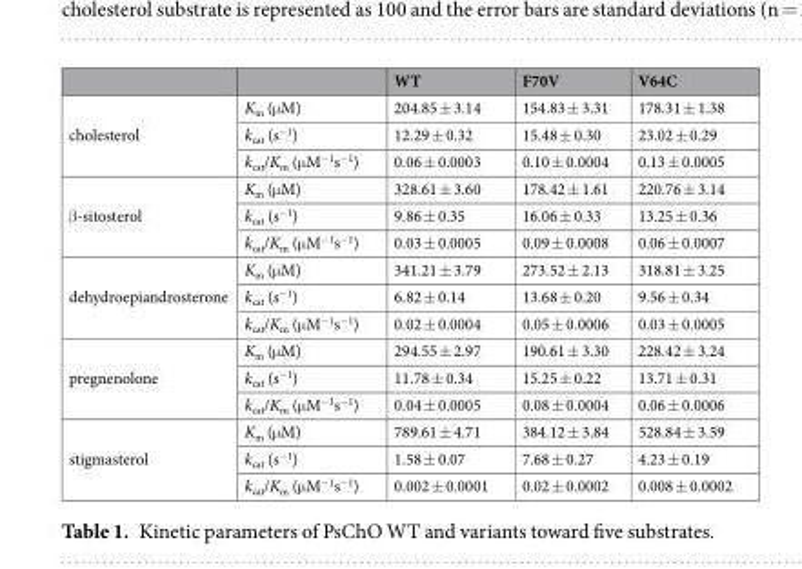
<table><thead><tr><td></td><td></td><td>WT</td><td>F70V</td><td>V64C</td></tr></thead><tbody><tr><td rowspan="3">cholesterol</td><td>K<sub>m</sub> (μM)</td><td>204.85 ± 3.14</td><td>154.83 ± 3.31</td><td>178.31 ± 1.38</td></tr><tr><td>k<sub>cat</sub> (s<sup>−1</sup>)</td><td>12.29 ± 0.32</td><td>15.48 ± 0.30</td><td>23.02 ± 0.29</td></tr><tr><td>k<sub>cat</sub>/K<sub>m</sub> (μM<sup>−1</sup>s<sup>−1</sup>)</td><td>0.06 ± 0.0003</td><td>0.10 ± 0.0004</td><td>0.13 ± 0.0005</td></tr><tr><td rowspan="3">β-sitosterol</td><td>K<sub>m</sub> (μM)</td><td>328.61 ± 3.60</td><td>178.42 ± 1.61</td><td>220.76 ± 3.14</td></tr><tr><td>k<sub>cat</sub> (s<sup>−1</sup>)</td><td>9.86 ± 0.35</td><td>16.06 ± 0.33</td><td>13.25 ± 0.36</td></tr><tr><td>k<sub>cat</sub>/K<sub>m</sub> (μM<sup>−1</sup>s<sup>−1</sup>)</td><td>0.03 ± 0.0005</td><td>0.09 ± 0.0008</td><td>0.06 ± 0.0007</td></tr><tr><td rowspan="3">dehydroepiandrosterone</td><td>K<sub>m</sub> (μM)</td><td>341.21 ± 3.79</td><td>273.52 ± 2.13</td><td>318.81 ± 3.25</td></tr><tr><td>k<sub>cat</sub> (s<sup>−1</sup>)</td><td>6.82 ± 0.14</td><td>13.68 ± 0.20</td><td>9.56 ± 0.34</td></tr><tr><td>k<sub>cat</sub>/K<sub>m</sub> (μM<sup>−1</sup>s<sup>−1</sup>)</td><td>0.02 ± 0.0004</td><td>0.05 ± 0.0006</td><td>0.03 ± 0.0005</td></tr><tr><td rowspan="3">pregnenolone</td><td>K<sub>m</sub> (μM)</td><td>294.55 ± 2.97</td><td>190.61 ± 3.30</td><td>228.42 ± 3.24</td></tr><tr><td>k<sub>cat</sub> (s<sup>−1</sup>)</td><td>11.78 ± 0.34</td><td>15.25 ± 0.22</td><td>13.71 ± 0.31</td></tr><tr><td>k<sub>cat</sub>/K<sub>m</sub> (μM<sup>−1</sup>s<sup>−1</sup>)</td><td>0.04 ± 0.0005</td><td>0.08 ± 0.0004</td><td>0.06 ± 0.0006</td></tr><tr><td rowspan="3">stigmasterol</td><td>K<sub>m</sub> (μM)</td><td>789.61 ± 4.71</td><td>384.12 ± 3.84</td><td>528.84 ± 3.59</td></tr><tr><td>k<sub>cat</sub> (s<sup>−1</sup>)</td><td>1.58 ± 0.07</td><td>7.68 ± 0.27</td><td>4.23 ± 0.19</td></tr><tr><td>k<sub>cat</sub>/K<sub>m</sub> (μM<sup>−1</sup>s<sup>−1</sup>)</td><td>0.002 ± 0.0001</td><td>0.02 ± 0.0002</td><td>0.008 ± 0.0002</td></tr></tbody></table>